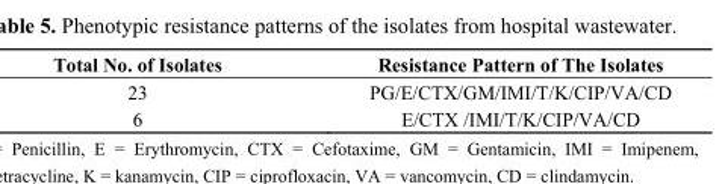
<table><thead><tr><td>Total No. of Isolates</td><td>Resistance Pattern of The Isolates</td></tr></thead><tbody><tr><td>23</td><td>PG/E/CTX/GM/IMI/T/K/CIP/VA/CD</td></tr><tr><td>6</td><td>E/CTX /IMI/T/K/CIP/VA/CD</td></tr></tbody></table>